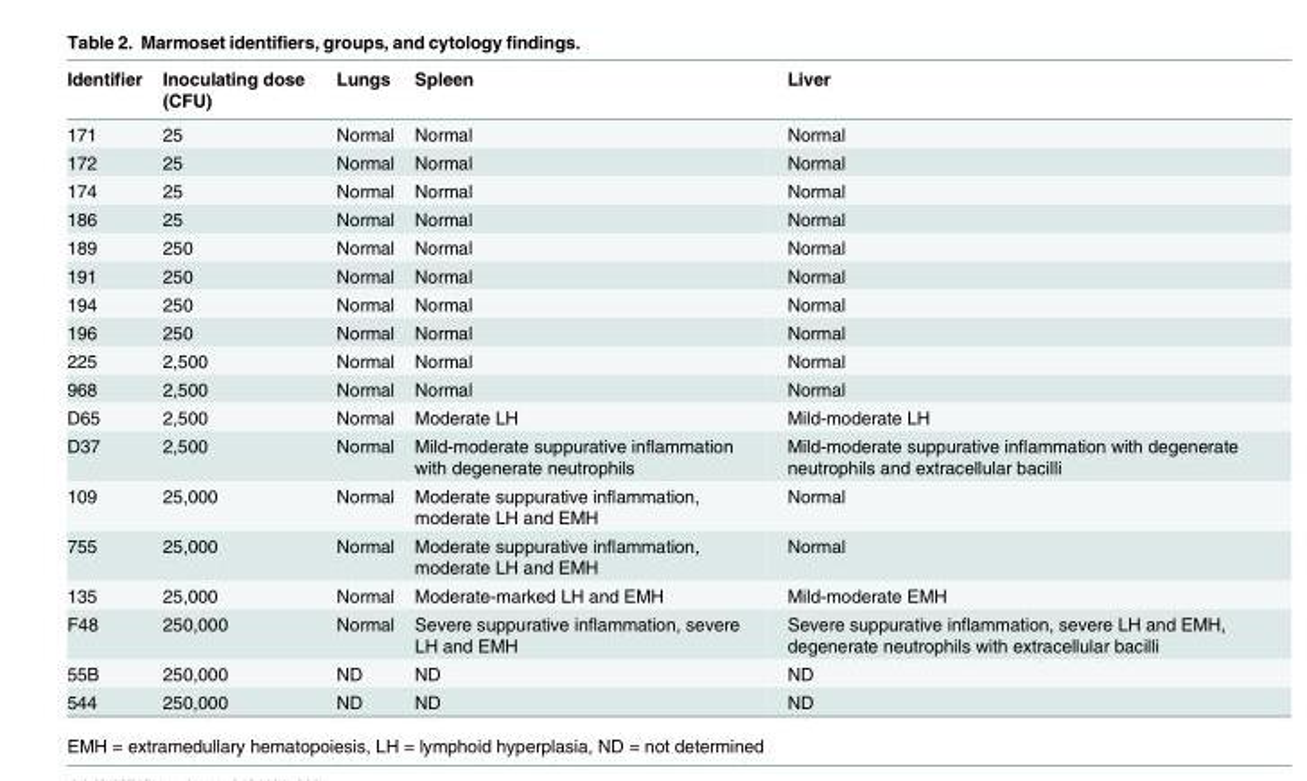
<table><thead><tr><td>Identifier</td><td>Inoculating dose (CFU)</td><td>Lungs</td><td>Spleen</td><td>Liver</td></tr></thead><tbody><tr><td>171</td><td>25</td><td>Normal</td><td>Normal</td><td>Normal</td></tr><tr><td>172</td><td>25</td><td>Normal</td><td>Normal</td><td>Normal</td></tr><tr><td>174</td><td>25</td><td>Normal</td><td>Normal</td><td>Normal</td></tr><tr><td>186</td><td>25</td><td>Normal</td><td>Normal</td><td>Normal</td></tr><tr><td>189</td><td>250</td><td>Normal</td><td>Normal</td><td>Normal</td></tr><tr><td>191</td><td>250</td><td>Normal</td><td>Normal</td><td>Normal</td></tr><tr><td>194</td><td>250</td><td>Normal</td><td>Normal</td><td>Normal</td></tr><tr><td>196</td><td>250</td><td>Normal</td><td>Normal</td><td>Normal</td></tr><tr><td>225</td><td>2,500</td><td>Normal</td><td>Normal</td><td>Normal</td></tr><tr><td>968</td><td>2,500</td><td>Normal</td><td>Normal</td><td>Normal</td></tr><tr><td>D65</td><td>2,500</td><td>Normal</td><td>Moderate LH</td><td>Mild-moderate LH</td></tr><tr><td>D37</td><td>2,500</td><td>Normal</td><td>Mild-moderate suppurative inflammation with degenerate neutrophils</td><td>Mild-moderate suppurative inflammation with degenerate neutrophils and extracellular bacilli</td></tr><tr><td>109</td><td>25,000</td><td>Normal</td><td>Moderate suppurative inflammation, moderate LH and EMH</td><td>Normal</td></tr><tr><td>755</td><td>25,000</td><td>Normal</td><td>Moderate suppurative inflammation, moderate LH and EMH</td><td>Normal</td></tr><tr><td>135</td><td>25,000</td><td>Normal</td><td>Moderate-marked LH and EMH</td><td>Mild-moderate EMH</td></tr><tr><td>F48</td><td>250,000</td><td>Normal</td><td>Severe suppurative inflammation, severe LH and EMH</td><td>Severe suppurative inflammation, severe LH and EMH, degenerate neutrophils with extracellular bacilli</td></tr><tr><td>55B</td><td>250,000</td><td>ND</td><td>ND</td><td>ND</td></tr><tr><td>544</td><td>250,000</td><td>ND</td><td>ND</td><td>ND</td></tr></tbody></table>